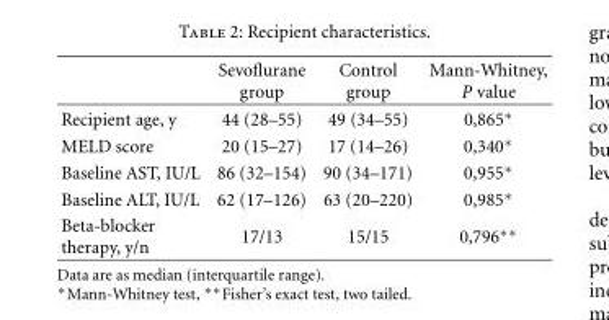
<table><thead><tr><td></td><td>Sevoflurane group</td><td>Control group</td><td>Mann-Whitney, P value</td></tr></thead><tbody><tr><td>Recipient age, y</td><td>44 (28–55)</td><td>49 (34–55)</td><td>0,865∗</td></tr><tr><td>MELD score</td><td>20 (15–27)</td><td>17 (14–26)</td><td>0,340∗</td></tr><tr><td>Baseline AST, IU/L</td><td>86 (32–154)</td><td>90 (34–171)</td><td>0,955∗</td></tr><tr><td>Baseline ALT, IU/L</td><td>62 (17–126)</td><td>63 (20–220)</td><td>0,985∗</td></tr><tr><td>Beta-blocker therapy, y/n</td><td>17/13</td><td>15/15</td><td>0,796∗∗</td></tr></tbody></table>